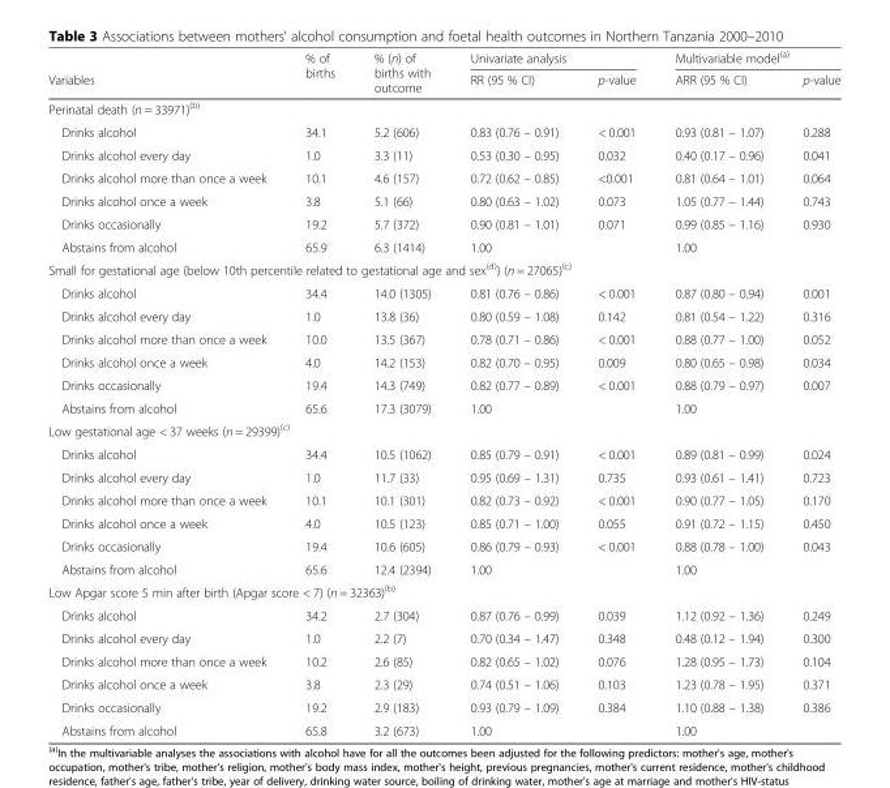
<table><thead><tr><td rowspan="2">Variables</td><td rowspan="2">% of births</td><td rowspan="2">% (n) of births with outcome</td><td colspan="2">Univariate analysis</td><td colspan="2">Multivariable model<sup>(a)</sup></td></tr><tr><td>RR (95 % CI)</td><td>p-value</td><td>ARR (95 % CI)</td><td>p-value</td></tr></thead><tbody><tr><td colspan="7">Perinatal death (n = 33971)<sup>(b)</sup></td></tr><tr><td>Drinks alcohol</td><td>34.1</td><td>5.2 (606)</td><td>0.83 (0.76 – 0.91)</td><td>&lt; 0.001</td><td>0.93 (0.81 – 1.07)</td><td>0.288</td></tr><tr><td>Drinks alcohol every day</td><td>1.0</td><td>3.3 (11)</td><td>0.53 (0.30 – 0.95)</td><td>0.032</td><td>0.40 (0.17 – 0.96)</td><td>0.041</td></tr><tr><td>Drinks alcohol more than once a week</td><td>10.1</td><td>4.6 (157)</td><td>0.72 (0.62 – 0.85)</td><td>&lt;0.001</td><td>0.81 (0.64 – 1.01)</td><td>0.064</td></tr><tr><td>Drinks alcohol once a week</td><td>3.8</td><td>5.1 (66)</td><td>0.80 (0.63 – 1.02)</td><td>0.073</td><td>1.05 (0.77 – 1.44)</td><td>0.743</td></tr><tr><td>Drinks occasionally</td><td>19.2</td><td>5.7 (372)</td><td>0.90 (0.81 – 1.01)</td><td>0.071</td><td>0.99 (0.85 – 1.16)</td><td>0.930</td></tr><tr><td>Abstains from alcohol</td><td>65.9</td><td>6.3 (1414)</td><td>1.00</td><td></td><td>1.00</td><td></td></tr><tr><td colspan="7">Small for gestational age (below 10th percentile related to gestational age and sex<sup>(d)</sup>) (n = 27065)<sup>(c)</sup></td></tr><tr><td>Drinks alcohol</td><td>34.4</td><td>14.0 (1305)</td><td>0.81 (0.76 – 0.86)</td><td>&lt; 0.001</td><td>0.87 (0.80 – 0.94)</td><td>0.001</td></tr><tr><td>Drinks alcohol every day</td><td>1.0</td><td>13.8 (36)</td><td>0.80 (0.59 – 1.08)</td><td>0.142</td><td>0.81 (0.54 – 1.22)</td><td>0.316</td></tr><tr><td>Drinks alcohol more than once a week</td><td>10.0</td><td>13.5 (367)</td><td>0.78 (0.71 – 0.86)</td><td>&lt; 0.001</td><td>0.88 (0.77 – 1.00)</td><td>0.052</td></tr><tr><td>Drinks alcohol once a week</td><td>4.0</td><td>14.2 (153)</td><td>0.82 (0.70 – 0.95)</td><td>0.009</td><td>0.80 (0.65 – 0.98)</td><td>0.034</td></tr><tr><td>Drinks occasionally</td><td>19.4</td><td>14.3 (749)</td><td>0.82 (0.77 – 0.89)</td><td>&lt; 0.001</td><td>0.88 (0.79 – 0.97)</td><td>0.007</td></tr><tr><td>Abstains from alcohol</td><td>65.6</td><td>17.3 (3079)</td><td>1.00</td><td></td><td>1.00</td><td></td></tr><tr><td colspan="7">Low gestational age &lt; 37 weeks (n = 29399)<sup>(c)</sup></td></tr><tr><td>Drinks alcohol</td><td>34.4</td><td>10.5 (1062)</td><td>0.85 (0.79 – 0.91)</td><td>&lt; 0.001</td><td>0.89 (0.81 – 0.99)</td><td>0.024</td></tr><tr><td>Drinks alcohol every day</td><td>1.0</td><td>11.7 (33)</td><td>0.95 (0.69 – 1.31)</td><td>0.735</td><td>0.93 (0.61 – 1.41)</td><td>0.723</td></tr><tr><td>Drinks alcohol more than once a week</td><td>10.1</td><td>10.1 (301)</td><td>0.82 (0.73 – 0.92)</td><td>&lt; 0.001</td><td>0.90 (0.77 – 1.05)</td><td>0.170</td></tr><tr><td>Drinks alcohol once a week</td><td>4.0</td><td>10.5 (123)</td><td>0.85 (0.71 – 1.00)</td><td>0.055</td><td>0.91 (0.72 – 1.15)</td><td>0.450</td></tr><tr><td>Drinks occasionally</td><td>19.4</td><td>10.6 (605)</td><td>0.86 (0.79 – 0.93)</td><td>&lt; 0.001</td><td>0.88 (0.78 – 1.00)</td><td>0.043</td></tr><tr><td>Abstains from alcohol</td><td>65.6</td><td>12.4 (2394)</td><td>1.00</td><td></td><td>1.00</td><td></td></tr><tr><td colspan="7">Low Apgar score 5 min after birth (Apgar score &lt; 7) (n = 32363)<sup>(b)</sup></td></tr><tr><td>Drinks alcohol</td><td>34.2</td><td>2.7 (304)</td><td>0.87 (0.76 – 0.99)</td><td>0.039</td><td>1.12 (0.92 – 1.36)</td><td>0.249</td></tr><tr><td>Drinks alcohol every day</td><td>1.0</td><td>2.2 (7)</td><td>0.70 (0.34 – 1.47)</td><td>0.348</td><td>0.48 (0.12 – 1.94)</td><td>0.300</td></tr><tr><td>Drinks alcohol more than once a week</td><td>10.2</td><td>2.6 (85)</td><td>0.82 (0.65 – 1.02)</td><td>0.076</td><td>1.28 (0.95 – 1.73)</td><td>0.104</td></tr><tr><td>Drinks alcohol once a week</td><td>3.8</td><td>2.3 (29)</td><td>0.74 (0.51 – 1.06)</td><td>0.103</td><td>1.23 (0.78 – 1.95)</td><td>0.371</td></tr><tr><td>Drinks occasionally</td><td>19.2</td><td>2.9 (183)</td><td>0.93 (0.79 – 1.09)</td><td>0.384</td><td>1.10 (0.88 – 1.38)</td><td>0.386</td></tr><tr><td>Abstains from alcohol</td><td>65.8</td><td>3.2 (673)</td><td>1.00</td><td></td><td>1.00</td><td></td></tr></tbody></table>